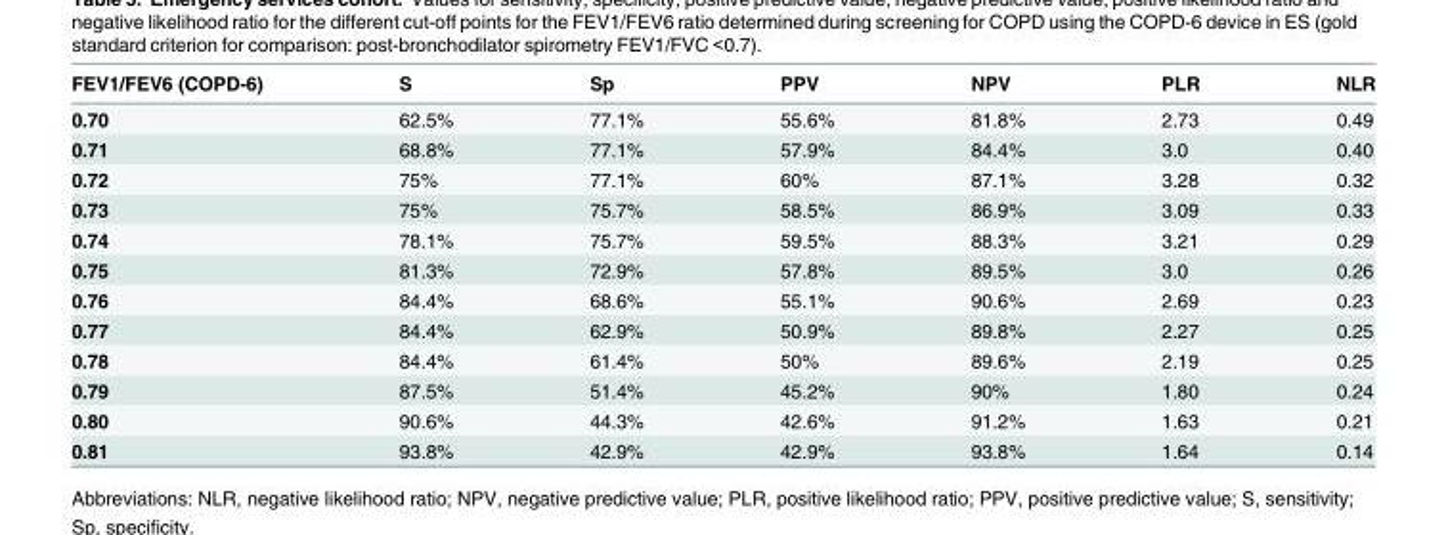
<table><thead><tr><td>FEV1/FEV6 (COPD-6)</td><td>S</td><td>Sp</td><td>PPV</td><td>NPV</td><td>PLR</td><td>NLR</td></tr></thead><tbody><tr><td>0.70</td><td>62.5%</td><td>77.1%</td><td>55.6%</td><td>81.8%</td><td>2.73</td><td>0.49</td></tr><tr><td>0.71</td><td>68.8%</td><td>77.1%</td><td>57.9%</td><td>84.4%</td><td>3.0</td><td>0.40</td></tr><tr><td>0.72</td><td>75%</td><td>77.1%</td><td>60%</td><td>87.1%</td><td>3.28</td><td>0.32</td></tr><tr><td>0.73</td><td>75%</td><td>75.7%</td><td>58.5%</td><td>86.9%</td><td>3.09</td><td>0.33</td></tr><tr><td>0.74</td><td>78.1%</td><td>75.7%</td><td>59.5%</td><td>88.3%</td><td>3.21</td><td>0.29</td></tr><tr><td>0.75</td><td>81.3%</td><td>72.9%</td><td>57.8%</td><td>89.5%</td><td>3.0</td><td>0.26</td></tr><tr><td>0.76</td><td>84.4%</td><td>68.6%</td><td>55.1%</td><td>90.6%</td><td>2.69</td><td>0.23</td></tr><tr><td>0.77</td><td>84.4%</td><td>62.9%</td><td>50.9%</td><td>89.8%</td><td>2.27</td><td>0.25</td></tr><tr><td>0.78</td><td>84.4%</td><td>61.4%</td><td>50%</td><td>89.6%</td><td>2.19</td><td>0.25</td></tr><tr><td>0.79</td><td>87.5%</td><td>51.4%</td><td>45.2%</td><td>90%</td><td>1.80</td><td>0.24</td></tr><tr><td>0.80</td><td>90.6%</td><td>44.3%</td><td>42.6%</td><td>91.2%</td><td>1.63</td><td>0.21</td></tr><tr><td>0.81</td><td>93.8%</td><td>42.9%</td><td>42.9%</td><td>93.8%</td><td>1.64</td><td>0.14</td></tr></tbody></table>